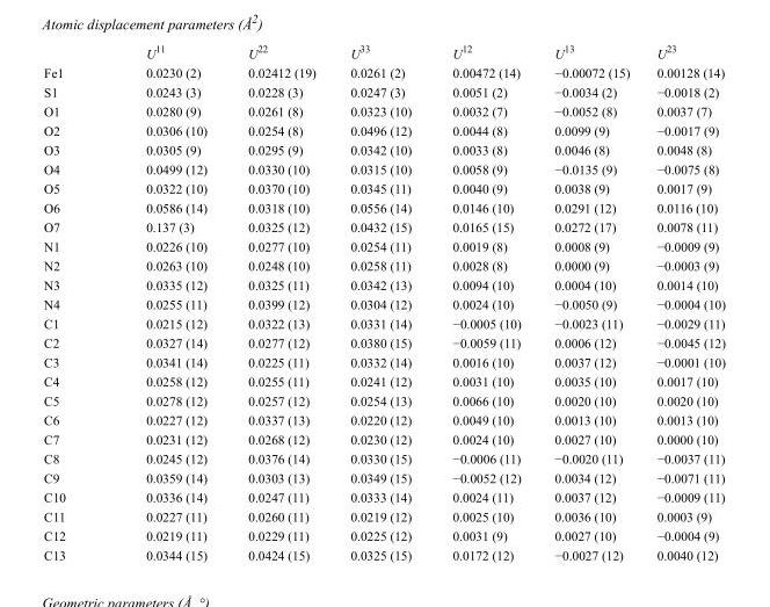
<table><thead><tr><td></td><td>U<sup>11</sup></td><td>U<sup>22</sup></td><td>U<sup>33</sup></td><td>U<sup>12</sup></td><td>U<sup>13</sup></td><td>U<sup>23</sup></td></tr></thead><tbody><tr><td>Fe1</td><td>0.0230 (2)</td><td>0.02412 (19)</td><td>0.0261 (2)</td><td>0.00472 (14)</td><td>−0.00072 (15)</td><td>0.00128 (14)</td></tr><tr><td>S1</td><td>0.0243 (3)</td><td>0.0228 (3)</td><td>0.0247 (3)</td><td>0.0051 (2)</td><td>−0.0034 (2)</td><td>−0.0018 (2)</td></tr><tr><td>O1</td><td>0.0280 (9)</td><td>0.0261 (8)</td><td>0.0323 (10)</td><td>0.0032 (7)</td><td>−0.0052 (8)</td><td>0.0037 (7)</td></tr><tr><td>O2</td><td>0.0306 (10)</td><td>0.0254 (8)</td><td>0.0496 (12)</td><td>0.0044 (8)</td><td>0.0099 (9)</td><td>−0.0017 (9)</td></tr><tr><td>O3</td><td>0.0305 (9)</td><td>0.0295 (9)</td><td>0.0342 (10)</td><td>0.0033 (8)</td><td>0.0046 (8)</td><td>0.0048 (8)</td></tr><tr><td>O4</td><td>0.0499 (12)</td><td>0.0330 (10)</td><td>0.0315 (10)</td><td>0.0058 (9)</td><td>−0.0135 (9)</td><td>−0.0075 (8)</td></tr><tr><td>O5</td><td>0.0322 (10)</td><td>0.0370 (10)</td><td>0.0345 (11)</td><td>0.0040 (9)</td><td>0.0038 (9)</td><td>0.0017 (9)</td></tr><tr><td>O6</td><td>0.0586 (14)</td><td>0.0318 (10)</td><td>0.0556 (14)</td><td>0.0146 (10)</td><td>0.0291 (12)</td><td>0.0116 (10)</td></tr><tr><td>O7</td><td>0.137 (3)</td><td>0.0325 (12)</td><td>0.0432 (15)</td><td>0.0165 (15)</td><td>0.0272 (17)</td><td>0.0078 (11)</td></tr><tr><td>N1</td><td>0.0226 (10)</td><td>0.0277 (10)</td><td>0.0254 (11)</td><td>0.0019 (8)</td><td>0.0008 (9)</td><td>−0.0009 (9)</td></tr><tr><td>N2</td><td>0.0263 (10)</td><td>0.0248 (10)</td><td>0.0258 (11)</td><td>0.0028 (8)</td><td>0.0000 (9)</td><td>−0.0003 (9)</td></tr><tr><td>N3</td><td>0.0335 (12)</td><td>0.0325 (11)</td><td>0.0342 (13)</td><td>0.0094 (10)</td><td>0.0004 (10)</td><td>0.0014 (10)</td></tr><tr><td>N4</td><td>0.0255 (11)</td><td>0.0399 (12)</td><td>0.0304 (12)</td><td>0.0024 (10)</td><td>−0.0050 (9)</td><td>−0.0004 (10)</td></tr><tr><td>C1</td><td>0.0215 (12)</td><td>0.0322 (13)</td><td>0.0331 (14)</td><td>−0.0005 (10)</td><td>−0.0023 (11)</td><td>−0.0029 (11)</td></tr><tr><td>C2</td><td>0.0327 (14)</td><td>0.0277 (12)</td><td>0.0380 (15)</td><td>−0.0059 (11)</td><td>0.0006 (12)</td><td>−0.0045 (12)</td></tr><tr><td>C3</td><td>0.0341 (14)</td><td>0.0225 (11)</td><td>0.0332 (14)</td><td>0.0016 (10)</td><td>0.0037 (12)</td><td>−0.0001 (10)</td></tr><tr><td>C4</td><td>0.0258 (12)</td><td>0.0255 (11)</td><td>0.0241 (12)</td><td>0.0031 (10)</td><td>0.0035 (10)</td><td>0.0017 (10)</td></tr><tr><td>C5</td><td>0.0278 (12)</td><td>0.0257 (12)</td><td>0.0254 (13)</td><td>0.0066 (10)</td><td>0.0020 (10)</td><td>0.0020 (10)</td></tr><tr><td>C6</td><td>0.0227 (12)</td><td>0.0337 (13)</td><td>0.0220 (12)</td><td>0.0049 (10)</td><td>0.0013 (10)</td><td>0.0013 (10)</td></tr><tr><td>C7</td><td>0.0231 (12)</td><td>0.0268 (12)</td><td>0.0230 (12)</td><td>0.0024 (10)</td><td>0.0027 (10)</td><td>0.0000 (10)</td></tr><tr><td>C8</td><td>0.0245 (12)</td><td>0.0376 (14)</td><td>0.0330 (15)</td><td>−0.0006 (11)</td><td>−0.0020 (11)</td><td>−0.0037 (11)</td></tr><tr><td>C9</td><td>0.0359 (14)</td><td>0.0303 (13)</td><td>0.0349 (15)</td><td>−0.0052 (12)</td><td>0.0034 (12)</td><td>−0.0071 (11)</td></tr><tr><td>C10</td><td>0.0336 (14)</td><td>0.0247 (11)</td><td>0.0333 (14)</td><td>0.0024 (11)</td><td>0.0037 (12)</td><td>−0.0009 (11)</td></tr><tr><td>C11</td><td>0.0227 (11)</td><td>0.0260 (11)</td><td>0.0219 (12)</td><td>0.0025 (10)</td><td>0.0036 (10)</td><td>0.0003 (9)</td></tr><tr><td>C12</td><td>0.0219 (11)</td><td>0.0229 (11)</td><td>0.0225 (12)</td><td>0.0031 (9)</td><td>0.0027 (10)</td><td>−0.0004 (9)</td></tr><tr><td>C13</td><td>0.0344 (15)</td><td>0.0424 (15)</td><td>0.0325 (15)</td><td>0.0172 (12)</td><td>−0.0027 (12)</td><td>0.0040 (12)</td></tr></tbody></table>